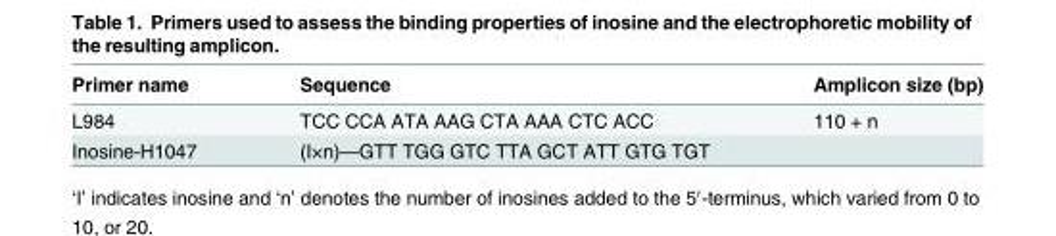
<table><thead><tr><td>Primer name</td><td>Sequence</td><td>Amplicon size (bp)</td></tr></thead><tbody><tr><td>L984</td><td>TCC CCA ATA AAG CTA AAA CTC ACC</td><td>110 + n</td></tr><tr><td>Inosine-H1047</td><td>(I×n)—GTT TGG GTC TTA GCT ATT GTG TGT</td><td></td></tr></tbody></table>